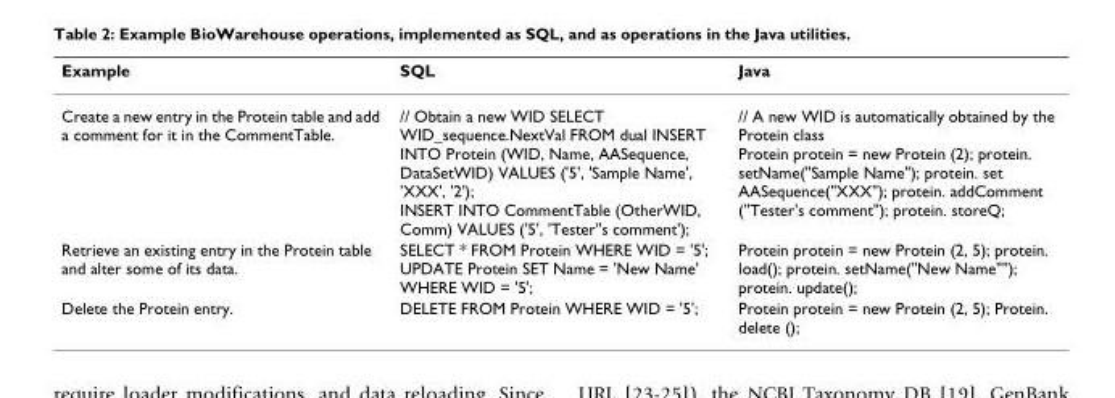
<table><thead><tr><td>Example</td><td>SQL</td><td>Java</td></tr></thead><tbody><tr><td>Create a new entry in the Protein table and add a comment for it in the CommentTable.</td><td>// Obtain a new WID SELECT WID_sequence.NextVal FROM dual INSERT INTO Protein (WID, Name, AASequence, DataSetWID) VALUES (&#x27;5&#x27;, &#x27;Sample Name&#x27;, &#x27;XXX&#x27;, &#x27;2&#x27;); INSERT INTO CommentTable (OtherWID, Comm) VALUES (&#x27;5&#x27;, &#x27;Tester&quot;s comment&#x27;);</td><td>// A new WID is automatically obtained by the Protein class Protein protein = new Protein (2); protein. setName(&quot;Sample Name&quot;); protein. set AASequence(&quot;XXX&quot;); protein. addComment (&quot;Tester&#x27;s comment&quot;); protein. storeQ;</td></tr><tr><td>Retrieve an existing entry in the Protein table and alter some of its data.</td><td>SELECT * FROM Protein WHERE WID = &#x27;5&#x27;; UPDATE Protein SET Name = &#x27;New Name&#x27; WHERE WID = &#x27;5&#x27;;</td><td>Protein protein = new Protein (2, 5); protein. load(); protein. setName(&quot;New Name&quot;&quot;); protein. update();</td></tr><tr><td>Delete the Protein entry.</td><td>DELETE FROM Protein WHERE WID = &#x27;5&#x27;;</td><td>Protein protein = new Protein (2, 5); Protein. delete ();</td></tr></tbody></table>